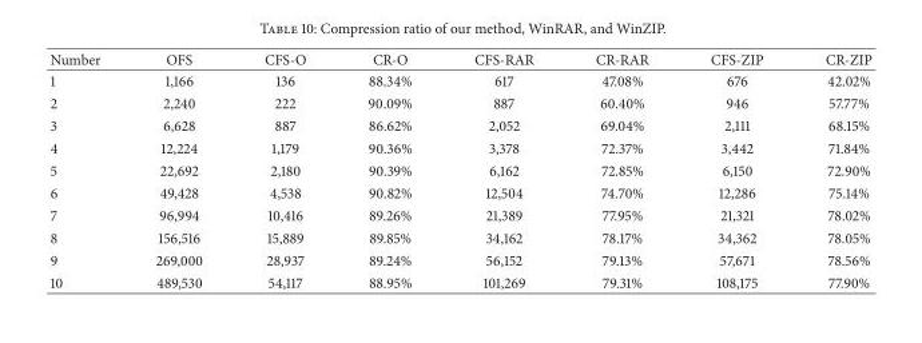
<table><thead><tr><td>Number</td><td>OFS</td><td>CFS-O</td><td>CR-O</td><td>CFS-RAR</td><td>CR-RAR</td><td>CFS-ZIP</td><td>CR-ZIP</td></tr></thead><tbody><tr><td>1</td><td>1,166</td><td>136</td><td>88.34%</td><td>617</td><td>47.08%</td><td>676</td><td>42.02%</td></tr><tr><td>2</td><td>2,240</td><td>222</td><td>90.09%</td><td>887</td><td>60.40%</td><td>946</td><td>57.77%</td></tr><tr><td>3</td><td>6,628</td><td>887</td><td>86.62%</td><td>2,052</td><td>69.04%</td><td>2,111</td><td>68.15%</td></tr><tr><td>4</td><td>12,224</td><td>1,179</td><td>90.36%</td><td>3,378</td><td>72.37%</td><td>3,442</td><td>71.84%</td></tr><tr><td>5</td><td>22,692</td><td>2,180</td><td>90.39%</td><td>6,162</td><td>72.85%</td><td>6,150</td><td>72.90%</td></tr><tr><td>6</td><td>49,428</td><td>4,538</td><td>90.82%</td><td>12,504</td><td>74.70%</td><td>12,286</td><td>75.14%</td></tr><tr><td>7</td><td>96,994</td><td>10,416</td><td>89.26%</td><td>21,389</td><td>77.95%</td><td>21,321</td><td>78.02%</td></tr><tr><td>8</td><td>156,516</td><td>15,889</td><td>89.85%</td><td>34,162</td><td>78.17%</td><td>34,362</td><td>78.05%</td></tr><tr><td>9</td><td>269,000</td><td>28,937</td><td>89.24%</td><td>56,152</td><td>79.13%</td><td>57,671</td><td>78.56%</td></tr><tr><td>10</td><td>489,530</td><td>54,117</td><td>88.95%</td><td>101,269</td><td>79.31%</td><td>108,175</td><td>77.90%</td></tr></tbody></table>